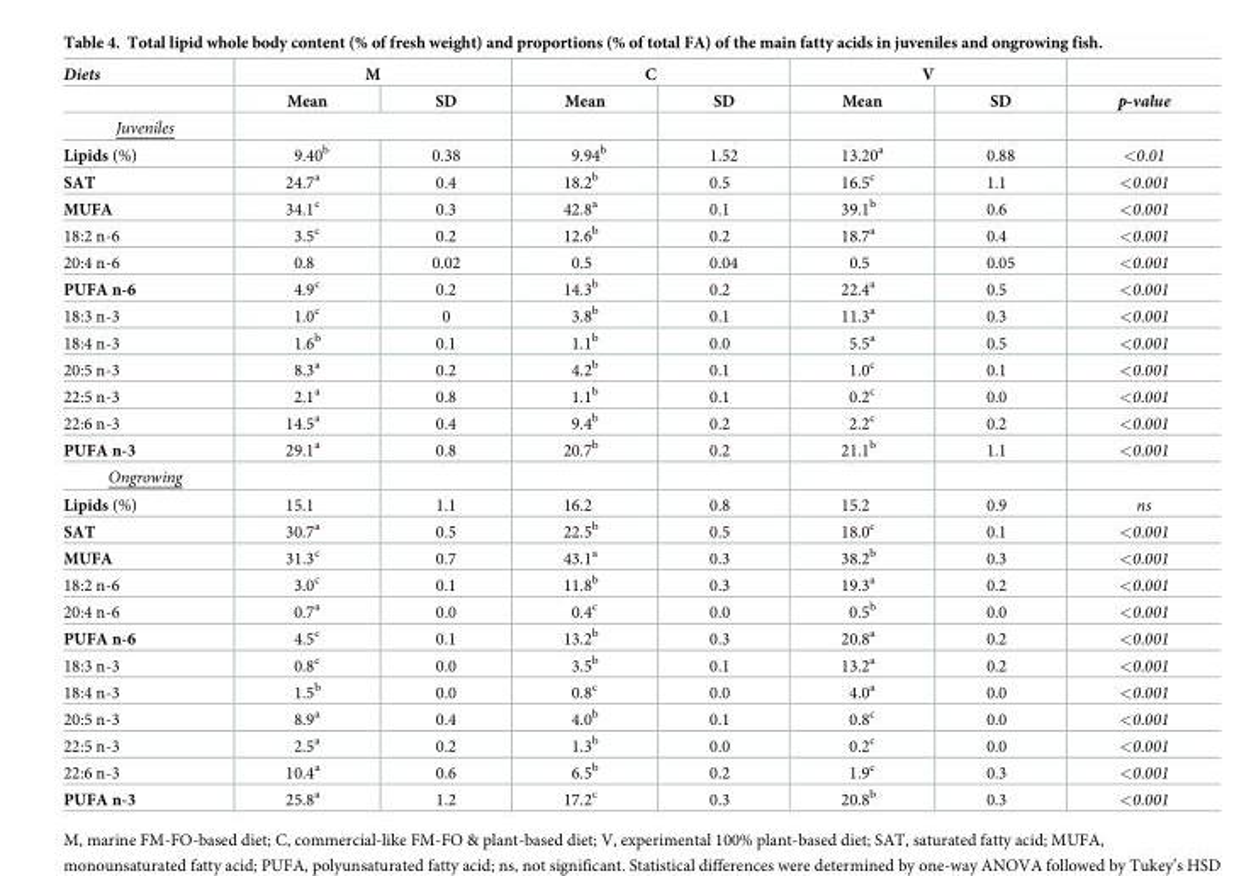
<table><thead><tr><td rowspan="2">Diets</td><td colspan="2">M</td><td colspan="2">C</td><td colspan="2">V</td><td rowspan="2">p-value</td></tr><tr><td>Mean</td><td>SD</td><td>Mean</td><td>SD</td><td>Mean</td><td>SD</td></tr></thead><tbody><tr><td colspan="8">Juveniles</td></tr><tr><td>Lipids (%)</td><td>9.40<sup>b</sup></td><td>0.38</td><td>9.94<sup>b</sup></td><td>1.52</td><td>13.20<sup>a</sup></td><td>0.88</td><td>&lt;0.01</td></tr><tr><td>SAT</td><td>24.7<sup>a</sup></td><td>0.4</td><td>18.2<sup>b</sup></td><td>0.5</td><td>16.5<sup>c</sup></td><td>1.1</td><td>&lt;0.001</td></tr><tr><td>MUFA</td><td>34.1<sup>c</sup></td><td>0.3</td><td>42.8<sup>a</sup></td><td>0.1</td><td>39.1<sup>b</sup></td><td>0.6</td><td>&lt;0.001</td></tr><tr><td>18:2 n-6</td><td>3.5<sup>c</sup></td><td>0.2</td><td>12.6<sup>b</sup></td><td>0.2</td><td>18.7<sup>a</sup></td><td>0.4</td><td>&lt;0.001</td></tr><tr><td>20:4 n-6</td><td>0.8</td><td>0.02</td><td>0.5</td><td>0.04</td><td>0.5</td><td>0.05</td><td>&lt;0.001</td></tr><tr><td>PUFA n-6</td><td>4.9<sup>c</sup></td><td>0.2</td><td>14.3<sup>b</sup></td><td>0.2</td><td>22.4<sup>a</sup></td><td>0.5</td><td>&lt;0.001</td></tr><tr><td>18:3 n-3</td><td>1.0<sup>c</sup></td><td>0</td><td>3.8<sup>b</sup></td><td>0.1</td><td>11.3<sup>a</sup></td><td>0.3</td><td>&lt;0.001</td></tr><tr><td>18:4 n-3</td><td>1.6<sup>b</sup></td><td>0.1</td><td>1.1<sup>b</sup></td><td>0.0</td><td>5.5<sup>a</sup></td><td>0.5</td><td>&lt;0.001</td></tr><tr><td>20:5 n-3</td><td>8.3<sup>a</sup></td><td>0.2</td><td>4.2<sup>b</sup></td><td>0.1</td><td>1.0<sup>c</sup></td><td>0.1</td><td>&lt;0.001</td></tr><tr><td>22:5 n-3</td><td>2.1<sup>a</sup></td><td>0.8</td><td>1.1<sup>b</sup></td><td>0.1</td><td>0.2<sup>c</sup></td><td>0.0</td><td>&lt;0.001</td></tr><tr><td>22:6 n-3</td><td>14.5<sup>a</sup></td><td>0.4</td><td>9.4<sup>b</sup></td><td>0.2</td><td>2.2<sup>c</sup></td><td>0.2</td><td>&lt;0.001</td></tr><tr><td>PUFA n-3</td><td>29.1<sup>a</sup></td><td>0.8</td><td>20.7<sup>b</sup></td><td>0.2</td><td>21.1<sup>b</sup></td><td>1.1</td><td>&lt;0.001</td></tr><tr><td colspan="8">Ongrowing</td></tr><tr><td>Lipids (%)</td><td>15.1</td><td>1.1</td><td>16.2</td><td>0.8</td><td>15.2</td><td>0.9</td><td>ns</td></tr><tr><td>SAT</td><td>30.7<sup>a</sup></td><td>0.5</td><td>22.5<sup>b</sup></td><td>0.5</td><td>18.0<sup>c</sup></td><td>0.1</td><td>&lt;0.001</td></tr><tr><td>MUFA</td><td>31.3<sup>c</sup></td><td>0.7</td><td>43.1<sup>a</sup></td><td>0.3</td><td>38.2<sup>b</sup></td><td>0.3</td><td>&lt;0.001</td></tr><tr><td>18:2 n-6</td><td>3.0<sup>c</sup></td><td>0.1</td><td>11.8<sup>b</sup></td><td>0.3</td><td>19.3<sup>a</sup></td><td>0.2</td><td>&lt;0.001</td></tr><tr><td>20:4 n-6</td><td>0.7<sup>a</sup></td><td>0.0</td><td>0.4<sup>c</sup></td><td>0.0</td><td>0.5<sup>b</sup></td><td>0.0</td><td>&lt;0.001</td></tr><tr><td>PUFA n-6</td><td>4.5<sup>c</sup></td><td>0.1</td><td>13.2<sup>b</sup></td><td>0.3</td><td>20.8<sup>a</sup></td><td>0.2</td><td>&lt;0.001</td></tr><tr><td>18:3 n-3</td><td>0.8<sup>c</sup></td><td>0.0</td><td>3.5<sup>b</sup></td><td>0.1</td><td>13.2<sup>a</sup></td><td>0.2</td><td>&lt;0.001</td></tr><tr><td>18:4 n-3</td><td>1.5<sup>b</sup></td><td>0.0</td><td>0.8<sup>c</sup></td><td>0.0</td><td>4.0<sup>a</sup></td><td>0.0</td><td>&lt;0.001</td></tr><tr><td>20:5 n-3</td><td>8.9<sup>a</sup></td><td>0.4</td><td>4.0<sup>b</sup></td><td>0.1</td><td>0.8<sup>c</sup></td><td>0.0</td><td>&lt;0.001</td></tr><tr><td>22:5 n-3</td><td>2.5<sup>a</sup></td><td>0.2</td><td>1.3<sup>b</sup></td><td>0.0</td><td>0.2<sup>c</sup></td><td>0.0</td><td>&lt;0.001</td></tr><tr><td>22:6 n-3</td><td>10.4<sup>a</sup></td><td>0.6</td><td>6.5<sup>b</sup></td><td>0.2</td><td>1.9<sup>c</sup></td><td>0.3</td><td>&lt;0.001</td></tr><tr><td>PUFA n-3</td><td>25.8<sup>a</sup></td><td>1.2</td><td>17.2<sup>c</sup></td><td>0.3</td><td>20.8<sup>b</sup></td><td>0.3</td><td>&lt;0.001</td></tr></tbody></table>